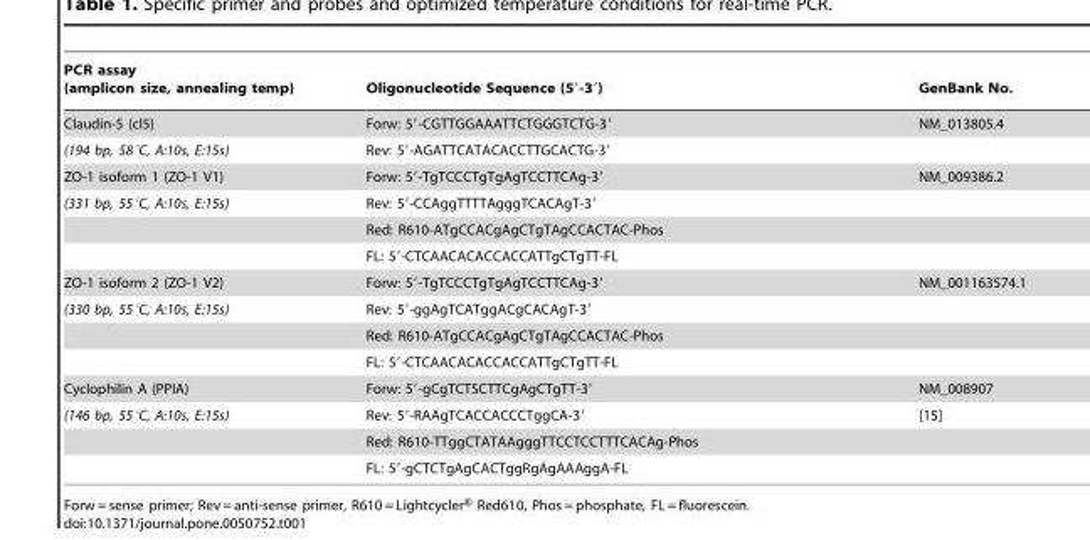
<table><thead><tr><td>PCR assay (amplicon size, annealing temp)</td><td>Oligonucleotide Sequence (5′-3′)</td><td>GenBank No.</td></tr></thead><tbody><tr><td>Claudin-5 (cl5)</td><td>Forw: 5′-CGTTGGAAATTCTGGGTCTG-3′</td><td>NM_013805.4</td></tr><tr><td>(194 bp, 58°C, A:10s, E:15s)</td><td>Rev: 5′-AGATTCATACACCTTGCACTG-3′</td><td></td></tr><tr><td>ZO-1 isoform 1 (ZO-1 V1)</td><td>Forw: 5′-TgTCCCTgTgAgTCCTTCAg-3′</td><td>NM_009386.2</td></tr><tr><td rowspan="3">(331 bp, 55°C, A:10s, E:15s)</td><td>Rev: 5′-CCAggTTTTAgggTCACAgT-3′</td><td></td></tr><tr><td>Red: R610-ATgCCACgAgCTgTAgCCACTAC-Phos</td><td></td></tr><tr><td>FL: 5′-CTCAACACACCACCATTgCTgTT-FL</td><td></td></tr><tr><td>ZO-1 isoform 2 (ZO-1 V2)</td><td>Forw: 5′-TgTCCCTgTgAgTCCTTCAg-3′</td><td>NM_001163574.1</td></tr><tr><td rowspan="3">(330 bp, 55°C, A:10s, E:15s)</td><td>Rev: 5′-ggAgTCATggACgCACAgT-3′</td><td></td></tr><tr><td>Red: R610-ATgCCACgAgCTgTAgCCACTAC-Phos</td><td></td></tr><tr><td>FL: 5′-CTCAACACACCACCATTgCTgTT-FL</td><td></td></tr><tr><td>Cyclophilin A (PPIA)</td><td>Forw: 5′-gCgTCTSCTTCgAgCTgTT-3′</td><td>NM_008907</td></tr><tr><td rowspan="3">(146 bp, 55°C, A:10s, E:15s)</td><td>Rev: 5′-RAAgTCACCACCCTggCA-3′</td><td>[15]</td></tr><tr><td>Red: R610-TTggCTATAAgggTTCCTCCTTTCACAg-Phos</td><td></td></tr><tr><td>FL: 5′-gCTCTgAgCACTggRgAgAAAggA-FL</td><td></td></tr></tbody></table>